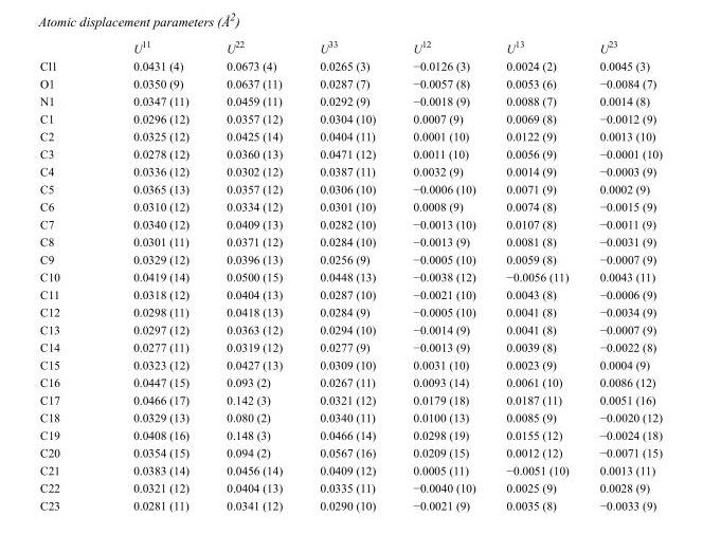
<table><thead><tr><td></td><td>U<sup>11</sup></td><td>U<sup>22</sup></td><td>U<sup>33</sup></td><td>U<sup>12</sup></td><td>U<sup>13</sup></td><td>U<sup>23</sup></td></tr></thead><tbody><tr><td>Cl1</td><td>0.0431 (4)</td><td>0.0673 (4)</td><td>0.0265 (3)</td><td>−0.0126 (3)</td><td>0.0024 (2)</td><td>0.0045 (3)</td></tr><tr><td>O1</td><td>0.0350 (9)</td><td>0.0637 (11)</td><td>0.0287 (7)</td><td>−0.0057 (8)</td><td>0.0053 (6)</td><td>−0.0084 (7)</td></tr><tr><td>N1</td><td>0.0347 (11)</td><td>0.0459 (11)</td><td>0.0292 (9)</td><td>−0.0018 (9)</td><td>0.0088 (7)</td><td>0.0014 (8)</td></tr><tr><td>C1</td><td>0.0296 (12)</td><td>0.0357 (12)</td><td>0.0304 (10)</td><td>0.0007 (9)</td><td>0.0069 (8)</td><td>−0.0012 (9)</td></tr><tr><td>C2</td><td>0.0325 (12)</td><td>0.0425 (14)</td><td>0.0404 (11)</td><td>0.0001 (10)</td><td>0.0122 (9)</td><td>0.0013 (10)</td></tr><tr><td>C3</td><td>0.0278 (12)</td><td>0.0360 (13)</td><td>0.0471 (12)</td><td>0.0011 (10)</td><td>0.0056 (9)</td><td>−0.0001 (10)</td></tr><tr><td>C4</td><td>0.0336 (12)</td><td>0.0302 (12)</td><td>0.0387 (11)</td><td>0.0032 (9)</td><td>0.0014 (9)</td><td>−0.0003 (9)</td></tr><tr><td>C5</td><td>0.0365 (13)</td><td>0.0357 (12)</td><td>0.0306 (10)</td><td>−0.0006 (10)</td><td>0.0071 (9)</td><td>0.0002 (9)</td></tr><tr><td>C6</td><td>0.0310 (12)</td><td>0.0334 (12)</td><td>0.0301 (10)</td><td>0.0008 (9)</td><td>0.0074 (8)</td><td>−0.0015 (9)</td></tr><tr><td>C7</td><td>0.0340 (12)</td><td>0.0409 (13)</td><td>0.0282 (10)</td><td>−0.0013 (10)</td><td>0.0107 (8)</td><td>−0.0011 (9)</td></tr><tr><td>C8</td><td>0.0301 (11)</td><td>0.0371 (12)</td><td>0.0284 (10)</td><td>−0.0013 (9)</td><td>0.0081 (8)</td><td>−0.0031 (9)</td></tr><tr><td>C9</td><td>0.0329 (12)</td><td>0.0396 (13)</td><td>0.0256 (9)</td><td>−0.0005 (10)</td><td>0.0059 (8)</td><td>−0.0007 (9)</td></tr><tr><td>C10</td><td>0.0419 (14)</td><td>0.0500 (15)</td><td>0.0448 (13)</td><td>−0.0038 (12)</td><td>−0.0056 (11)</td><td>0.0043 (11)</td></tr><tr><td>C11</td><td>0.0318 (12)</td><td>0.0404 (13)</td><td>0.0287 (10)</td><td>−0.0021 (10)</td><td>0.0043 (8)</td><td>−0.0006 (9)</td></tr><tr><td>C12</td><td>0.0298 (11)</td><td>0.0418 (13)</td><td>0.0284 (9)</td><td>−0.0005 (10)</td><td>0.0041 (8)</td><td>−0.0034 (9)</td></tr><tr><td>C13</td><td>0.0297 (12)</td><td>0.0363 (12)</td><td>0.0294 (10)</td><td>−0.0014 (9)</td><td>0.0041 (8)</td><td>−0.0007 (9)</td></tr><tr><td>C14</td><td>0.0277 (11)</td><td>0.0319 (12)</td><td>0.0277 (9)</td><td>−0.0013 (9)</td><td>0.0039 (8)</td><td>−0.0022 (8)</td></tr><tr><td>C15</td><td>0.0323 (12)</td><td>0.0427 (13)</td><td>0.0309 (10)</td><td>0.0031 (10)</td><td>0.0023 (9)</td><td>0.0004 (9)</td></tr><tr><td>C16</td><td>0.0447 (15)</td><td>0.093 (2)</td><td>0.0267 (11)</td><td>0.0093 (14)</td><td>0.0061 (10)</td><td>0.0086 (12)</td></tr><tr><td>C17</td><td>0.0466 (17)</td><td>0.142 (3)</td><td>0.0321 (12)</td><td>0.0179 (18)</td><td>0.0187 (11)</td><td>0.0051 (16)</td></tr><tr><td>C18</td><td>0.0329 (13)</td><td>0.080 (2)</td><td>0.0340 (11)</td><td>0.0100 (13)</td><td>0.0085 (9)</td><td>−0.0020 (12)</td></tr><tr><td>C19</td><td>0.0408 (16)</td><td>0.148 (3)</td><td>0.0466 (14)</td><td>0.0298 (19)</td><td>0.0155 (12)</td><td>−0.0024 (18)</td></tr><tr><td>C20</td><td>0.0354 (15)</td><td>0.094 (2)</td><td>0.0567 (16)</td><td>0.0209 (15)</td><td>0.0012 (12)</td><td>−0.0071 (15)</td></tr><tr><td>C21</td><td>0.0383 (14)</td><td>0.0456 (14)</td><td>0.0409 (12)</td><td>0.0005 (11)</td><td>−0.0051 (10)</td><td>0.0013 (11)</td></tr><tr><td>C22</td><td>0.0321 (12)</td><td>0.0404 (13)</td><td>0.0335 (11)</td><td>−0.0040 (10)</td><td>0.0025 (9)</td><td>0.0028 (9)</td></tr><tr><td>C23</td><td>0.0281 (11)</td><td>0.0341 (12)</td><td>0.0290 (10)</td><td>−0.0021 (9)</td><td>0.0035 (8)</td><td>−0.0033 (9)</td></tr></tbody></table>